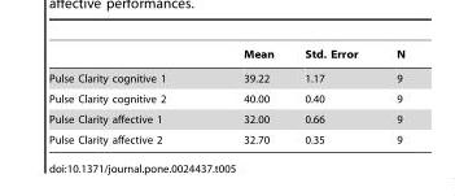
<table><thead><tr><td></td><td>Mean</td><td>Std. Error</td><td>N</td></tr></thead><tbody><tr><td>Pulse Clarity cognitive 1</td><td>39.22</td><td>1.17</td><td>9</td></tr><tr><td>Pulse Clarity cognitive 2</td><td>40.00</td><td>0.40</td><td>9</td></tr><tr><td>Pulse Clarity affective 1</td><td>32.00</td><td>0.66</td><td>9</td></tr><tr><td>Pulse Clarity affective 2</td><td>32.70</td><td>0.35</td><td>9</td></tr></tbody></table>